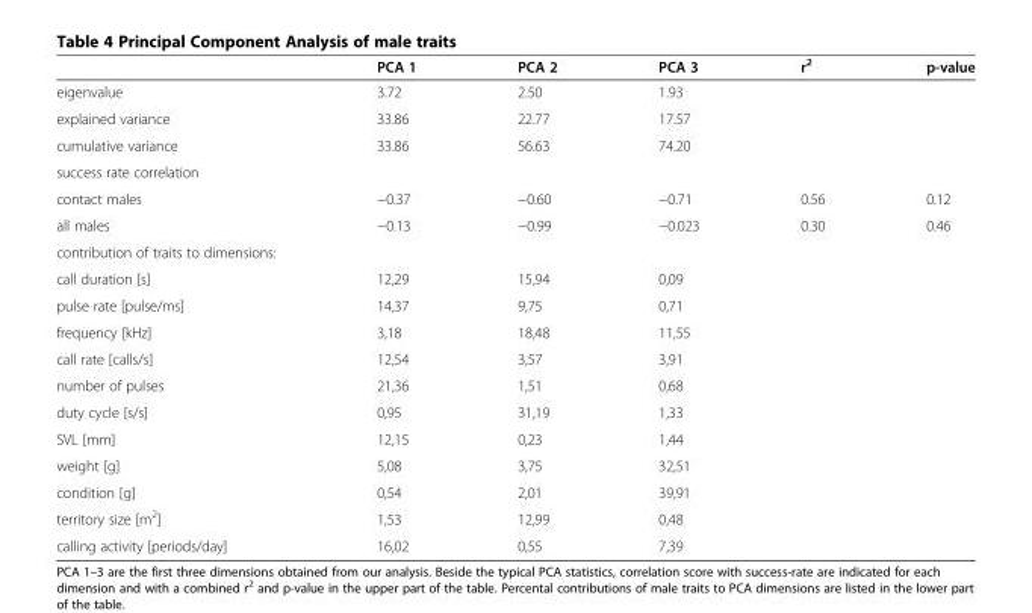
<table><thead><tr><td></td><td>PCA 1</td><td>PCA 2</td><td>PCA 3</td><td>r<sup>2</sup></td><td>p-value</td></tr></thead><tbody><tr><td>eigenvalue</td><td>3.72</td><td>2.50</td><td>1.93</td><td></td><td></td></tr><tr><td>explained variance</td><td>33.86</td><td>22.77</td><td>17.57</td><td></td><td></td></tr><tr><td>cumulative variance</td><td>33.86</td><td>56.63</td><td>74.20</td><td></td><td></td></tr><tr><td colspan="6">success rate correlation</td></tr><tr><td>contact males</td><td>−0.37</td><td>−0.60</td><td>−0.71</td><td>0.56</td><td>0.12</td></tr><tr><td>all males</td><td>−0.13</td><td>−0.99</td><td>−0.023</td><td>0.30</td><td>0.46</td></tr><tr><td colspan="6">contribution of traits to dimensions:</td></tr><tr><td>call duration [s]</td><td>12,29</td><td>15,94</td><td>0,09</td><td></td><td></td></tr><tr><td>pulse rate [pulse/ms]</td><td>14,37</td><td>9,75</td><td>0,71</td><td></td><td></td></tr><tr><td>frequency [kHz]</td><td>3,18</td><td>18,48</td><td>11,55</td><td></td><td></td></tr><tr><td>call rate [calls/s]</td><td>12,54</td><td>3,57</td><td>3,91</td><td></td><td></td></tr><tr><td>number of pulses</td><td>21,36</td><td>1,51</td><td>0,68</td><td></td><td></td></tr><tr><td>duty cycle [s/s]</td><td>0,95</td><td>31,19</td><td>1,33</td><td></td><td></td></tr><tr><td>SVL [mm]</td><td>12,15</td><td>0,23</td><td>1,44</td><td></td><td></td></tr><tr><td>weight [g]</td><td>5,08</td><td>3,75</td><td>32,51</td><td></td><td></td></tr><tr><td>condition [g]</td><td>0,54</td><td>2,01</td><td>39,91</td><td></td><td></td></tr><tr><td>territory size [m<sup>2</sup>]</td><td>1,53</td><td>12,99</td><td>0,48</td><td></td><td></td></tr><tr><td>calling activity [periods/day]</td><td>16,02</td><td>0,55</td><td>7,39</td><td></td><td></td></tr></tbody></table>